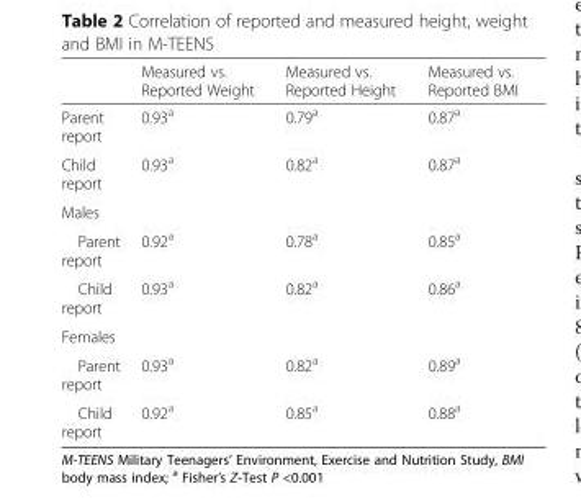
<table><thead><tr><td></td><td>Measured vs. Reported Weight</td><td>Measured vs. Reported Height</td><td>Measured vs. Reported BMI</td></tr></thead><tbody><tr><td>Parent report</td><td>0.93<sup>a</sup></td><td>0.79<sup>a</sup></td><td>0.87<sup>a</sup></td></tr><tr><td>Child report</td><td>0.93<sup>a</sup></td><td>0.82<sup>a</sup></td><td>0.87<sup>a</sup></td></tr><tr><td colspan="4">Males</td></tr><tr><td>Parent report</td><td>0.92<sup>a</sup></td><td>0.78<sup>a</sup></td><td>0.85<sup>a</sup></td></tr><tr><td>Child report</td><td>0.93<sup>a</sup></td><td>0.82<sup>a</sup></td><td>0.86<sup>a</sup></td></tr><tr><td colspan="4">Females</td></tr><tr><td>Parent report</td><td>0.93<sup>a</sup></td><td>0.82<sup>a</sup></td><td>0.89<sup>a</sup></td></tr><tr><td>Child report</td><td>0.92<sup>a</sup></td><td>0.85<sup>a</sup></td><td>0.88<sup>a</sup></td></tr></tbody></table>